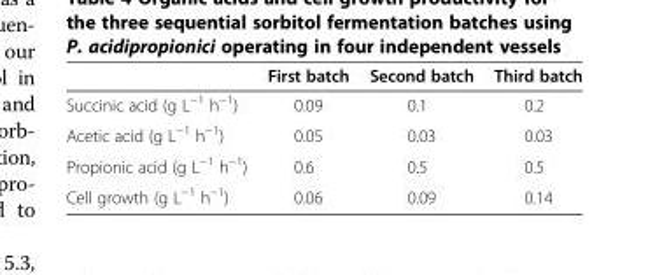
<table><thead><tr><td></td><td>First batch</td><td>Second batch</td><td>Third batch</td></tr></thead><tbody><tr><td>Succinic acid (g L<sup>−1</sup> h<sup>−1</sup>)</td><td>0.09</td><td>0.1</td><td>0.2</td></tr><tr><td>Acetic acid (g L<sup>−1</sup> h<sup>−1</sup>)</td><td>0.05</td><td>0.03</td><td>0.03</td></tr><tr><td>Propionic acid (g L<sup>−1</sup> h<sup>−1</sup>)</td><td>0.6</td><td>0.5</td><td>0.5</td></tr><tr><td>Cell growth (g L<sup>−1</sup> h<sup>−1</sup>)</td><td>0.06</td><td>0.09</td><td>0.14</td></tr></tbody></table>